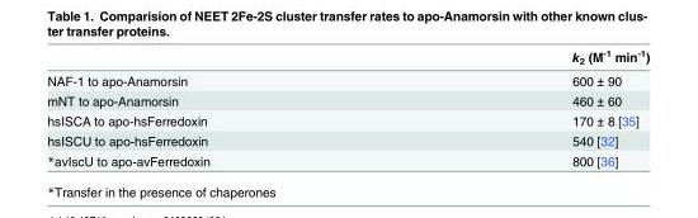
<table><thead><tr><td></td><td>k<sub>2</sub> (M<sup>-1</sup> min<sup>-1</sup>)</td></tr></thead><tbody><tr><td>NAF-1 to apo-Anamorsin</td><td>600 ± 90</td></tr><tr><td>mNT to apo-Anamorsin</td><td>460 ± 60</td></tr><tr><td>hsISCA to apo-hsFerredoxin</td><td>170 ± 8 [35]</td></tr><tr><td>hsISCU to apo-hsFerredoxin</td><td>540 [32]</td></tr><tr><td>*avIscU to apo-avFerredoxin</td><td>800 [36]</td></tr></tbody></table>